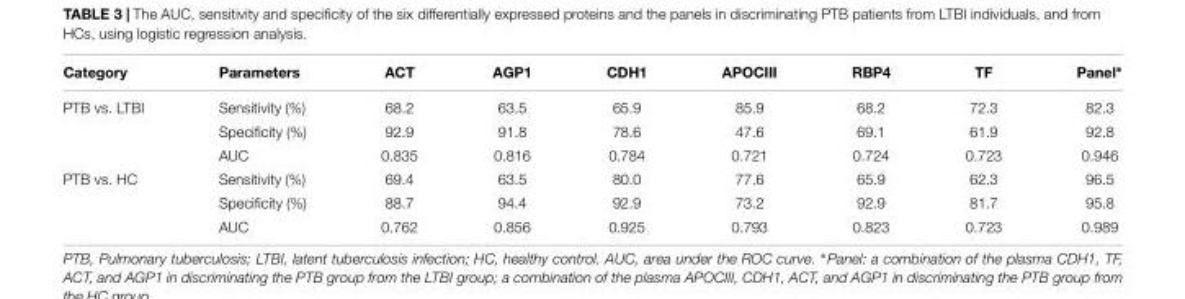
<table><thead><tr><td>Category</td><td>Parameters</td><td>ACT</td><td>AGP1</td><td>CDH1</td><td>APOCIII</td><td>RBP4</td><td>TF</td><td>Panel∗</td></tr></thead><tbody><tr><td rowspan="3">PTB vs. LTBI</td><td>Sensitivity (%)</td><td>68.2</td><td>63.5</td><td>65.9</td><td>85.9</td><td>68.2</td><td>72.3</td><td>82.3</td></tr><tr><td>Specificity (%)</td><td>92.9</td><td>91.8</td><td>78.6</td><td>47.6</td><td>69.1</td><td>61.9</td><td>92.8</td></tr><tr><td>AUC</td><td>0.835</td><td>0.816</td><td>0.784</td><td>0.721</td><td>0.724</td><td>0.723</td><td>0.946</td></tr><tr><td rowspan="3">PTB vs. HC</td><td>Sensitivity (%)</td><td>69.4</td><td>63.5</td><td>80.0</td><td>77.6</td><td>65.9</td><td>62.3</td><td>96.5</td></tr><tr><td>Specificity (%)</td><td>88.7</td><td>94.4</td><td>92.9</td><td>73.2</td><td>92.9</td><td>81.7</td><td>95.8</td></tr><tr><td>AUC</td><td>0.762</td><td>0.856</td><td>0.925</td><td>0.793</td><td>0.823</td><td>0.723</td><td>0.989</td></tr></tbody></table>